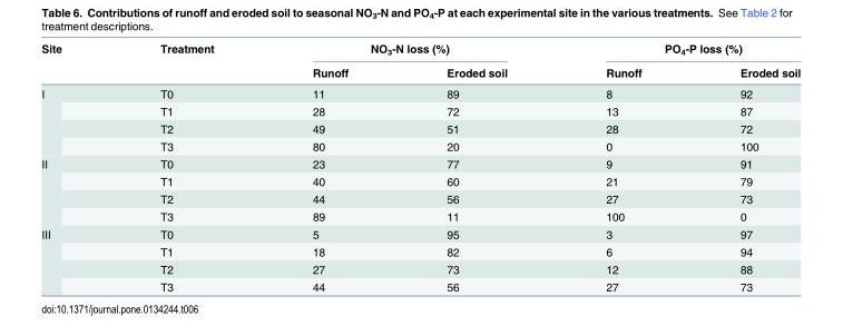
<table><thead><tr><td rowspan="2">Site</td><td rowspan="2">Treatment</td><td colspan="2">NO<sub>3</sub>-N loss (%)</td><td colspan="2">PO<sub>4</sub>-P loss (%)</td></tr><tr><td>Runoff</td><td>Eroded soil</td><td>Runoff</td><td>Eroded soil</td></tr></thead><tbody><tr><td rowspan="4">I</td><td>T0</td><td>11</td><td>89</td><td>8</td><td>92</td></tr><tr><td>T1</td><td>28</td><td>72</td><td>13</td><td>87</td></tr><tr><td>T2</td><td>49</td><td>51</td><td>28</td><td>72</td></tr><tr><td>T3</td><td>80</td><td>20</td><td>0</td><td>100</td></tr><tr><td rowspan="4">II</td><td>T0</td><td>23</td><td>77</td><td>9</td><td>91</td></tr><tr><td>T1</td><td>40</td><td>60</td><td>21</td><td>79</td></tr><tr><td>T2</td><td>44</td><td>56</td><td>27</td><td>73</td></tr><tr><td>T3</td><td>89</td><td>11</td><td>100</td><td>0</td></tr><tr><td rowspan="4">III</td><td>T0</td><td>5</td><td>95</td><td>3</td><td>97</td></tr><tr><td>T1</td><td>18</td><td>82</td><td>6</td><td>94</td></tr><tr><td>T2</td><td>27</td><td>73</td><td>12</td><td>88</td></tr><tr><td>T3</td><td>44</td><td>56</td><td>27</td><td>73</td></tr></tbody></table>